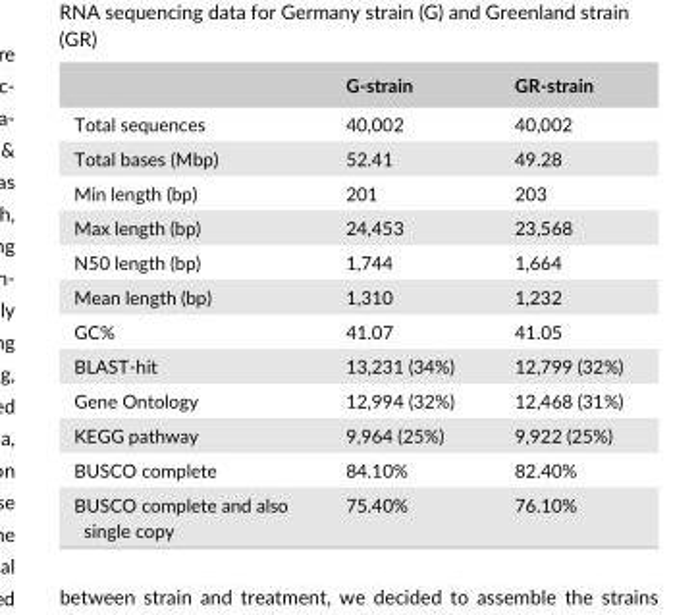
<table><thead><tr><td></td><td>G- strain</td><td>GR- strain</td></tr></thead><tbody><tr><td>Total sequences</td><td>40,002</td><td>40,002</td></tr><tr><td>Total bases (Mbp)</td><td>52.41</td><td>49.28</td></tr><tr><td>Min length (bp)</td><td>201</td><td>203</td></tr><tr><td>Max length (bp)</td><td>24,453</td><td>23,568</td></tr><tr><td>N50 length (bp)</td><td>1,744</td><td>1,664</td></tr><tr><td>Mean length (bp)</td><td>1,310</td><td>1,232</td></tr><tr><td>GC%</td><td>41.07</td><td>41.05</td></tr><tr><td>BLAST- hit</td><td>13,231 (34%)</td><td>12,799 (32%)</td></tr><tr><td>Gene Ontology</td><td>12,994 (32%)</td><td>12,468 (31%)</td></tr><tr><td>KEGG pathway</td><td>9,964 (25%)</td><td>9,922 (25%)</td></tr><tr><td>BUSCO complete</td><td>84.10%</td><td>82.40%</td></tr><tr><td>BUSCO complete and also single copy</td><td>75.40%</td><td>76.10%</td></tr></tbody></table>